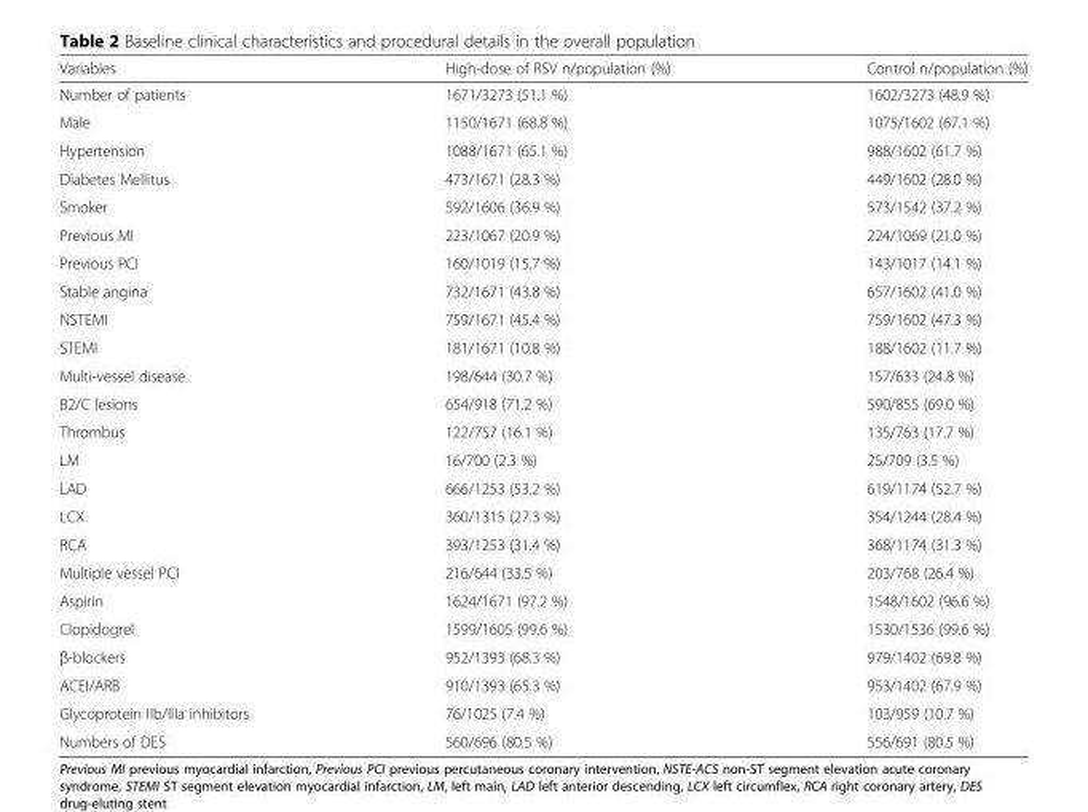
<table><thead><tr><td>Variables</td><td>High-dose of RSV n/population (%)</td><td>Control n/population (%)</td></tr></thead><tbody><tr><td>Number of patients</td><td>1671/3273 (51.1 %)</td><td>1602/3273 (48.9 %)</td></tr><tr><td>Male</td><td>1150/1671 (68.8 %)</td><td>1075/1602 (67.1 %)</td></tr><tr><td>Hypertension</td><td>1088/1671 (65.1 %)</td><td>988/1602 (61.7 %)</td></tr><tr><td>Diabetes Mellitus</td><td>473/1671 (28.3 %)</td><td>449/1602 (28.0 %)</td></tr><tr><td>Smoker</td><td>592/1606 (36.9 %)</td><td>573/1542 (37.2 %)</td></tr><tr><td>Previous MI</td><td>223/1067 (20.9 %)</td><td>224/1069 (21.0 %)</td></tr><tr><td>Previous PCI</td><td>160/1019 (15.7 %)</td><td>143/1017 (14.1 %)</td></tr><tr><td>Stable angina</td><td>732/1671 (43.8 %)</td><td>657/1602 (41.0 %)</td></tr><tr><td>NSTEMI</td><td>759/1671 (45.4 %)</td><td>759/1602 (47.3 %)</td></tr><tr><td>STEMI</td><td>181/1671 (10.8 %)</td><td>188/1602 (11.7 %)</td></tr><tr><td>Multi-vessel disease</td><td>198/644 (30.7 %)</td><td>157/633 (24.8 %)</td></tr><tr><td>B2/C lesions</td><td>654/918 (71.2 %)</td><td>590/855 (69.0 %)</td></tr><tr><td>Thrombus</td><td>122/757 (16.1 %)</td><td>135/763 (17.7 %)</td></tr><tr><td>LM</td><td>16/700 (2.3 %)</td><td>25/709 (3.5 %)</td></tr><tr><td>LAD</td><td>666/1253 (53.2 %)</td><td>619/1174 (52.7 %)</td></tr><tr><td>LCX</td><td>360/1315 (27.3 %)</td><td>354/1244 (28.4 %)</td></tr><tr><td>RCA</td><td>393/1253 (31.4 %)</td><td>368/1174 (31.3 %)</td></tr><tr><td>Multiple vessel PCI</td><td>216/644 (33.5 %)</td><td>203/768 (26.4 %)</td></tr><tr><td>Aspirin</td><td>1624/1671 (97.2 %)</td><td>1548/1602 (96.6 %)</td></tr><tr><td>Clopidogrel</td><td>1599/1605 (99.6 %)</td><td>1530/1536 (99.6 %)</td></tr><tr><td>β-blockers</td><td>952/1393 (68.3 %)</td><td>979/1402 (69.8 %)</td></tr><tr><td>ACEI/ARB</td><td>910/1393 (65.3 %)</td><td>953/1402 (67.9 %)</td></tr><tr><td>Glycoprotein IIb/IIIa inhibitors</td><td>76/1025 (7.4 %)</td><td>103/959 (10.7 %)</td></tr><tr><td>Numbers of DES</td><td>560/696 (80.5 %)</td><td>556/691 (80.5 %)</td></tr></tbody></table>